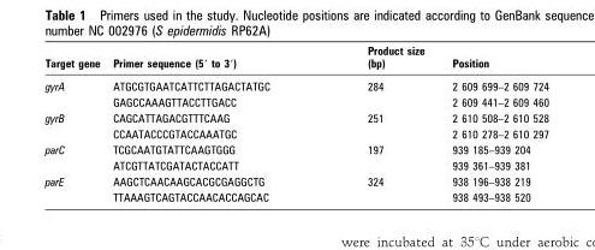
<table><thead><tr><td>Target gene</td><td>Primer sequence (5′ to 3′)</td><td>Product size (bp)</td><td>Position</td></tr></thead><tbody><tr><td rowspan="2">gyrA</td><td>ATGCGTGAATCATTCTTAGACTATGC</td><td>284</td><td>2 609 699–2 609 724</td></tr><tr><td>GAGCCAAAGTTACCTTGACC</td><td></td><td>2 609 441–2 609 460</td></tr><tr><td rowspan="2">gyrB</td><td>CAGCATTAGACGTTTCAAG</td><td>251</td><td>2 610 508–2 610 528</td></tr><tr><td>CCAATACCCGTACCAAATGC</td><td></td><td>2 610 278–2 610 297</td></tr><tr><td rowspan="2">parC</td><td>TCGCAATGTATTCAAGTGGG</td><td>197</td><td>939 185–939 204</td></tr><tr><td>ATCGTTATCGATACTACCATT</td><td></td><td>939 361–939 381</td></tr><tr><td rowspan="2">parE</td><td>AAGCTCAACAAGCACGCGAGGCTG</td><td>324</td><td>938 196–938 219</td></tr><tr><td>TTAAAGTCAGTACCAACACCAGCAC</td><td></td><td>938 493–938 520</td></tr></tbody></table>